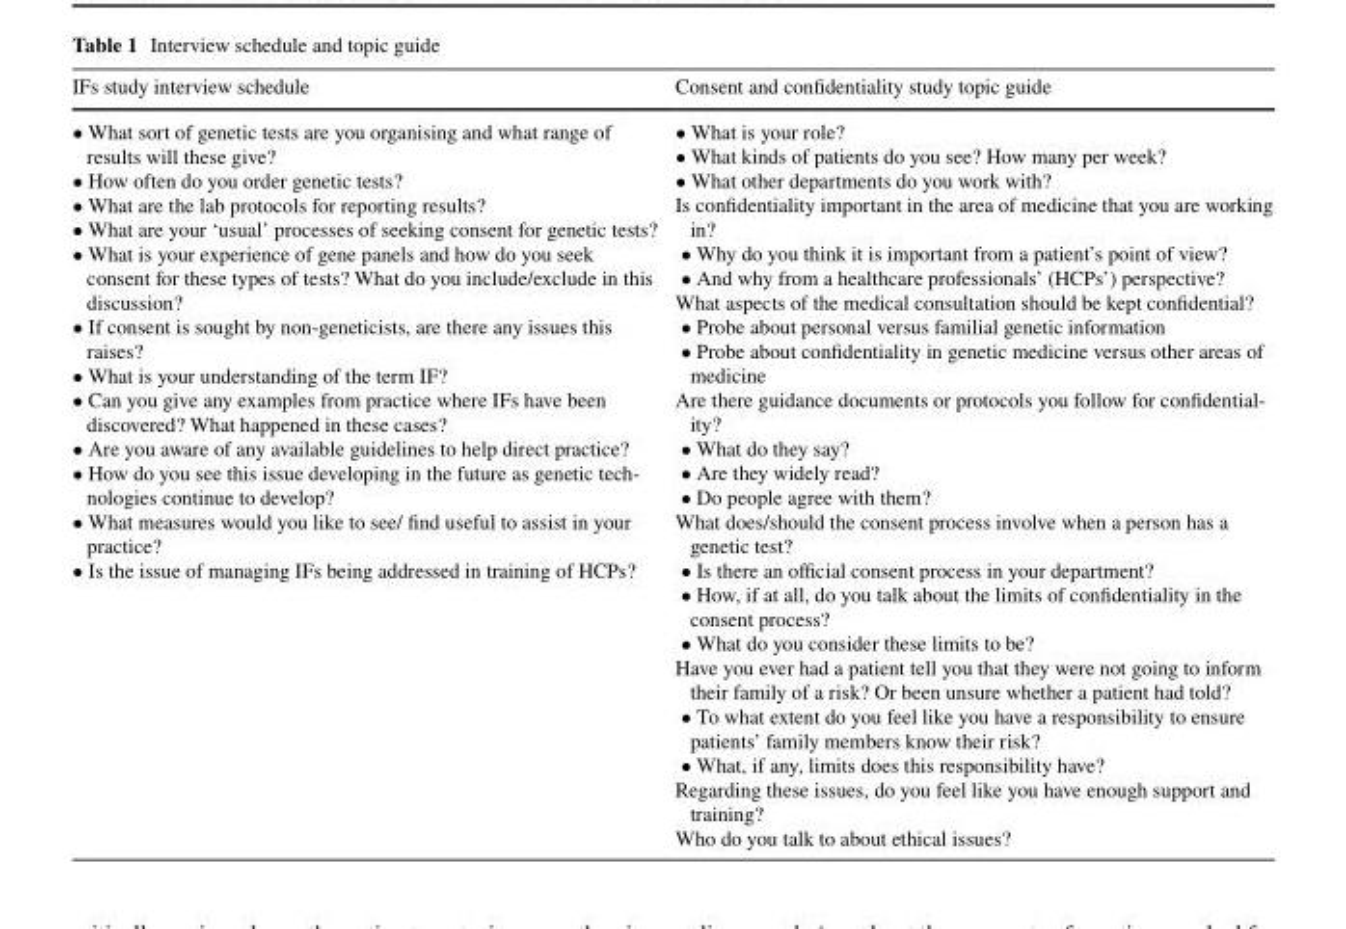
<table><thead><tr><td>IFs study interview schedule</td><td>Consent and confidentiality study topic guide</td></tr></thead><tbody><tr><td>• What sort of genetic tests are you organising and what range of results will these give? • How often do you order genetic tests? • What are the lab protocols for reporting results? • What are your ‘usual’ processes of seeking consent for genetic tests? • What is your experience of gene panels and how do you seek consent for these types of tests? What do you include/exclude in this discussion? • If consent is sought by non-geneticists, are there any issues this raises? • What is your understanding of the term IF? • Can you give any examples from practice where IFs have been discovered? What happened in these cases? • Are you aware of any available guidelines to help direct practice? • How do you see this issue developing in the future as genetic tech- nologies continue to develop? • What measures would you like to see/ find useful to assist in your practice? • Is the issue of managing IFs being addressed in training of HCPs?</td><td>• What is your role? • What kinds of patients do you see? How many per week? • What other departments do you work with? Is confidentiality important in the area of medicine that you are working in? • Why do you think it is important from a patient’s point of view? • And why from a healthcare professionals’ (HCPs’) perspective? What aspects of the medical consultation should be kept confidential? • Probe about personal versus familial genetic information • Probe about confidentiality in genetic medicine versus other areas of medicine Are there guidance documents or protocols you follow for confidential- ity? • What do they say? • Are they widely read? • Do people agree with them? What does/should the consent process involve when a person has a genetic test? • Is there an official consent process in your department? • How, if at all, do you talk about the limits of confidentiality in the consent process? • What do you consider these limits to be? Have you ever had a patient tell you that they were not going to inform their family of a risk? Or been unsure whether a patient had told? • To what extent do you feel like you have a responsibility to ensure patients’ family members know their risk? • What, if any, limits does this responsibility have? Regarding these issues, do you feel like you have enough support and training? Who do you talk to about ethical issues?</td></tr></tbody></table>